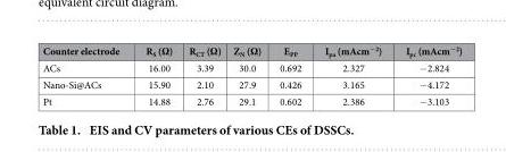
<table><thead><tr><td>Counter electrode</td><td>R<sub>S</sub> (Ω)</td><td>R<sub>CT</sub> (Ω)</td><td>Z<sub>N</sub> (Ω)</td><td>E<sub>PP</sub></td><td>I<sub>pa</sub> (mAcm<sup>−2</sup>)</td><td>I<sub>pc</sub> (mAcm<sup>−2</sup>)</td></tr></thead><tbody><tr><td>ACs</td><td>16.00</td><td>3.39</td><td>30.0</td><td>0.692</td><td>2.327</td><td>− 2.824</td></tr><tr><td>Nano-Si@ACs</td><td>15.90</td><td>2.10</td><td>27.9</td><td>0.426</td><td>3.165</td><td>− 4.172</td></tr><tr><td>Pt</td><td>14.88</td><td>2.76</td><td>29.1</td><td>0.602</td><td>2.386</td><td>− 3.103</td></tr></tbody></table>